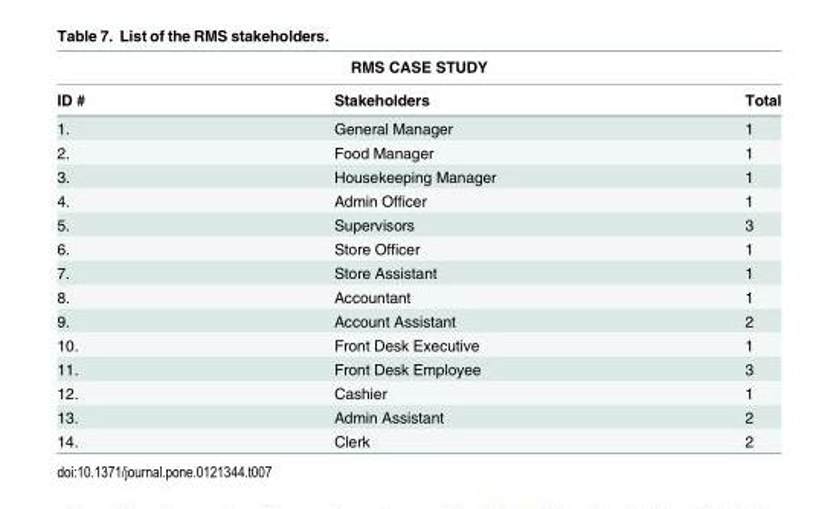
<table><thead><tr><td colspan="3">RMS CASE STUDY</td></tr><tr><td>ID #</td><td>Stakeholders</td><td>Total</td></tr></thead><tbody><tr><td>1.</td><td>General Manager</td><td>1</td></tr><tr><td>2.</td><td>Food Manager</td><td>1</td></tr><tr><td>3.</td><td>Housekeeping Manager</td><td>1</td></tr><tr><td>4.</td><td>Admin Officer</td><td>1</td></tr><tr><td>5.</td><td>Supervisors</td><td>3</td></tr><tr><td>6.</td><td>Store Officer</td><td>1</td></tr><tr><td>7.</td><td>Store Assistant</td><td>1</td></tr><tr><td>8.</td><td>Accountant</td><td>1</td></tr><tr><td>9.</td><td>Account Assistant</td><td>2</td></tr><tr><td>10.</td><td>Front Desk Executive</td><td>1</td></tr><tr><td>11.</td><td>Front Desk Employee</td><td>3</td></tr><tr><td>12.</td><td>Cashier</td><td>1</td></tr><tr><td>13.</td><td>Admin Assistant</td><td>2</td></tr><tr><td>14.</td><td>Clerk</td><td>2</td></tr></tbody></table>